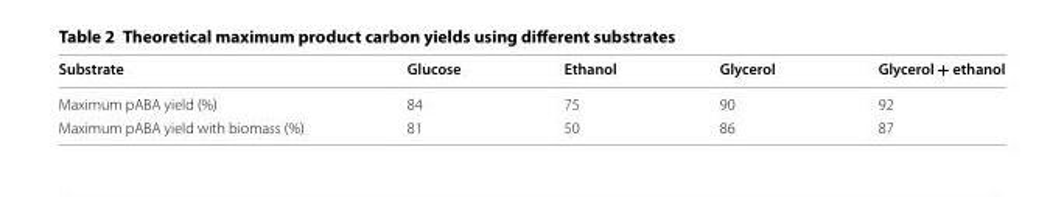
<table><thead><tr><td>Substrate</td><td>Glucose</td><td>Ethanol</td><td>Glycerol</td><td>Glycerol + ethanol</td></tr></thead><tbody><tr><td>Maximum pABA yield (%)</td><td>84</td><td>75</td><td>90</td><td>92</td></tr><tr><td>Maximum pABA yield with biomass (%)</td><td>81</td><td>50</td><td>86</td><td>87</td></tr></tbody></table>